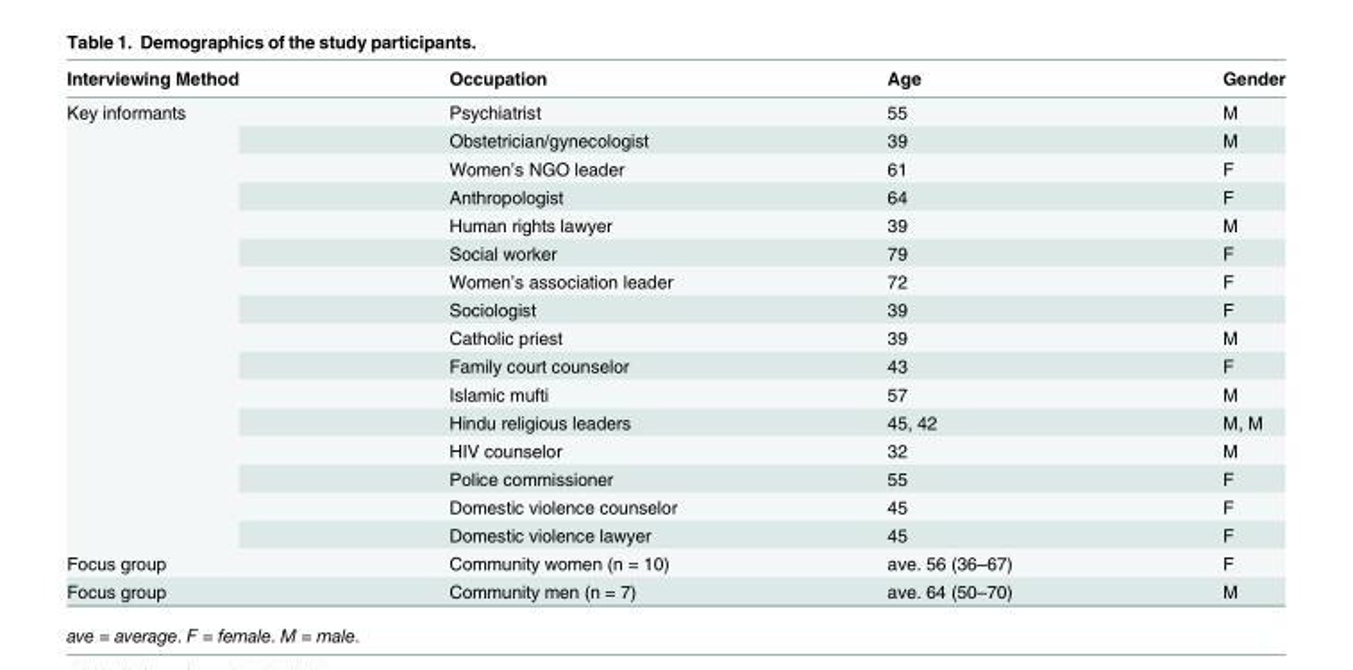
<table><thead><tr><td>Interviewing Method</td><td>Occupation</td><td>Age</td><td>Gender</td></tr></thead><tbody><tr><td rowspan="16">Key informants</td><td>Psychiatrist</td><td>55</td><td>M</td></tr><tr><td>Obstetrician/gynecologist</td><td>39</td><td>M</td></tr><tr><td>Women’s NGO leader</td><td>61</td><td>F</td></tr><tr><td>Anthropologist</td><td>64</td><td>F</td></tr><tr><td>Human rights lawyer</td><td>39</td><td>M</td></tr><tr><td>Social worker</td><td>79</td><td>F</td></tr><tr><td>Women’s association leader</td><td>72</td><td>F</td></tr><tr><td>Sociologist</td><td>39</td><td>F</td></tr><tr><td>Catholic priest</td><td>39</td><td>M</td></tr><tr><td>Family court counselor</td><td>43</td><td>F</td></tr><tr><td>Islamic mufti</td><td>57</td><td>M</td></tr><tr><td>Hindu religious leaders</td><td>45, 42</td><td>M, M</td></tr><tr><td>HIV counselor</td><td>32</td><td>M</td></tr><tr><td>Police commissioner</td><td>55</td><td>F</td></tr><tr><td>Domestic violence counselor</td><td>45</td><td>F</td></tr><tr><td>Domestic violence lawyer</td><td>45</td><td>F</td></tr><tr><td>Focus group</td><td>Community women (n = 10)</td><td>ave. 56 (36–67)</td><td>F</td></tr><tr><td>Focus group</td><td>Community men (n = 7)</td><td>ave. 64 (50–70)</td><td>M</td></tr></tbody></table>